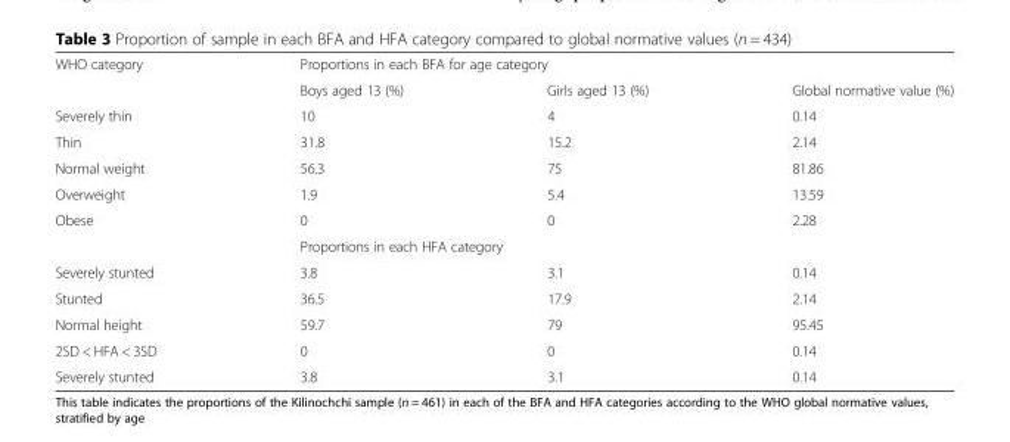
<table><tbody><tr><td rowspan="2">WHO category</td><td colspan="3">Proportions in each BFA for age category</td></tr><tr><td>Boys aged 13 (%)</td><td>Girls aged 13 (%)</td><td>Global normative value (%)</td></tr><tr><td>Severely thin</td><td>10</td><td>4</td><td>0.14</td></tr><tr><td>Thin</td><td>31.8</td><td>15.2</td><td>2.14</td></tr><tr><td>Normal weight</td><td>56.3</td><td>75</td><td>81.86</td></tr><tr><td>Overweight</td><td>1.9</td><td>5.4</td><td>13.59</td></tr><tr><td rowspan="2">Obese</td><td>0</td><td>0</td><td>2.28</td></tr><tr><td colspan="3">Proportions in each HFA category</td></tr><tr><td>Severely stunted</td><td>3.8</td><td>3.1</td><td>0.14</td></tr><tr><td>Stunted</td><td>36.5</td><td>17.9</td><td>2.14</td></tr><tr><td>Normal height</td><td>59.7</td><td>79</td><td>95.45</td></tr><tr><td>2SD &lt; HFA &lt; 3SD</td><td>0</td><td>0</td><td>0.14</td></tr><tr><td>Severely stunted</td><td>3.8</td><td>3.1</td><td>0.14</td></tr></tbody></table>